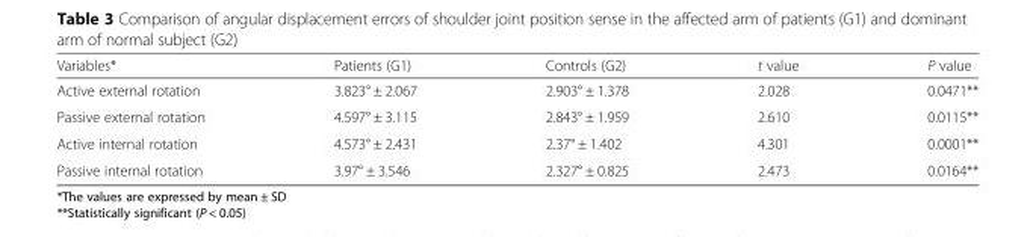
<table><thead><tr><td>Variables*</td><td>Patients (G1)</td><td>Controls (G2)</td><td>t value</td><td>P value</td></tr></thead><tbody><tr><td>Active external rotation</td><td>3.823° ± 2.067</td><td>2.903° ± 1.378</td><td>2.028</td><td>0.0471**</td></tr><tr><td>Passive external rotation</td><td>4.597° ± 3.115</td><td>2.843° ± 1.959</td><td>2.610</td><td>0.0115**</td></tr><tr><td>Active internal rotation</td><td>4.573° ± 2.431</td><td>2.37° ± 1.402</td><td>4.301</td><td>0.0001**</td></tr><tr><td>Passive internal rotation</td><td>3.97° ± 3.546</td><td>2.327° ± 0.825</td><td>2.473</td><td>0.0164**</td></tr></tbody></table>